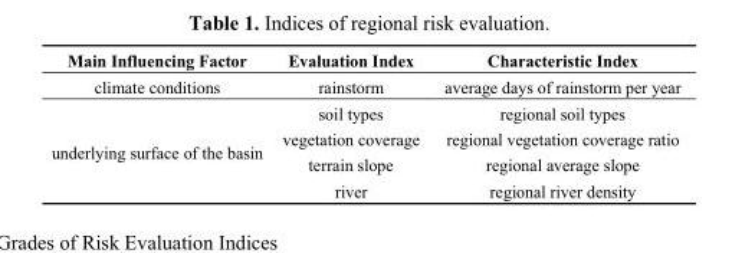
<table><thead><tr><td>Main Influencing Factor</td><td>Evaluation Index</td><td>Characteristic Index</td></tr></thead><tbody><tr><td>climate conditions</td><td>rainstorm</td><td>average days of rainstorm per year</td></tr><tr><td rowspan="4">underlying surface of the basin</td><td>soil types</td><td>regional soil types</td></tr><tr><td>vegetation coverage</td><td>regional vegetation coverage ratio</td></tr><tr><td>terrain slope</td><td>regional average slope</td></tr><tr><td>river</td><td>regional river density</td></tr></tbody></table>